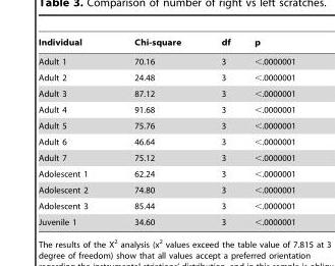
<table><thead><tr><td>Individual</td><td>Chi-square</td><td>df</td><td>p</td></tr></thead><tbody><tr><td>Adult 1</td><td>70.16</td><td>3</td><td>&lt;.0000001</td></tr><tr><td>Adult 2</td><td>24.48</td><td>3</td><td>&lt;.0000001</td></tr><tr><td>Adult 3</td><td>87.12</td><td>3</td><td>&lt;.0000001</td></tr><tr><td>Adult 4</td><td>91.68</td><td>3</td><td>&lt;.0000001</td></tr><tr><td>Adult 5</td><td>75.76</td><td>3</td><td>&lt;.0000001</td></tr><tr><td>Adult 6</td><td>46.64</td><td>3</td><td>&lt;.0000001</td></tr><tr><td>Adult 7</td><td>75.12</td><td>3</td><td>&lt;.0000001</td></tr><tr><td>Adolescent 1</td><td>62.24</td><td>3</td><td>&lt;.0000001</td></tr><tr><td>Adolescent 2</td><td>74.80</td><td>3</td><td>&lt;.0000001</td></tr><tr><td>Adolescent 3</td><td>85.44</td><td>3</td><td>&lt;.0000001</td></tr><tr><td>Juvenile 1</td><td>34.60</td><td>3</td><td>&lt;.0000001</td></tr></tbody></table>